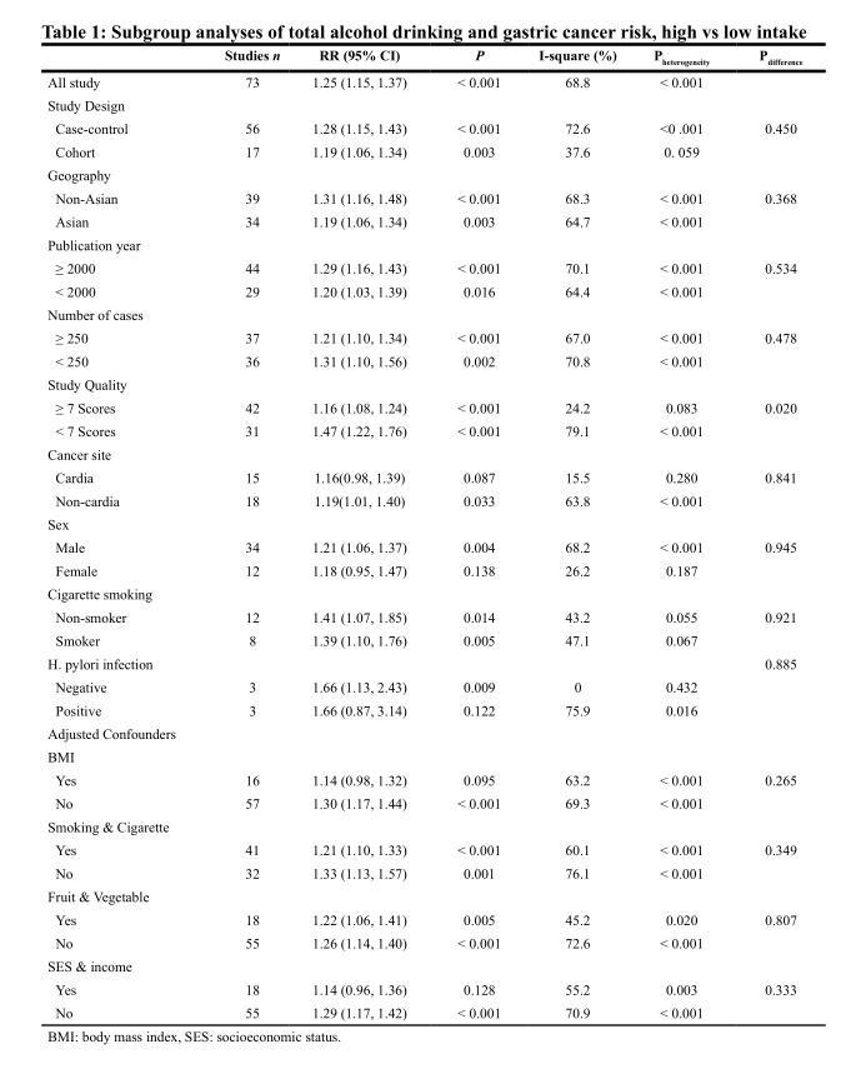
<table><thead><tr><td></td><td>Studies n</td><td>RR (95% CI)</td><td>P</td><td>I-square (%)</td><td>P<sub>heterogeneity</sub></td><td>P<sub>difference</sub></td></tr></thead><tbody><tr><td>All study</td><td>73</td><td>1.25 (1.15, 1.37)</td><td>&lt; 0.001</td><td>68.8</td><td>&lt; 0.001</td><td></td></tr><tr><td colspan="7">Study Design</td></tr><tr><td>Case-control</td><td>56</td><td>1.28 (1.15, 1.43)</td><td>&lt; 0.001</td><td>72.6</td><td>&lt;0 .001</td><td>0.450</td></tr><tr><td>Cohort</td><td>17</td><td>1.19 (1.06, 1.34)</td><td>0.003</td><td>37.6</td><td>0. 059</td><td></td></tr><tr><td colspan="7">Geography</td></tr><tr><td>Non-Asian</td><td>39</td><td>1.31 (1.16, 1.48)</td><td>&lt; 0.001</td><td>68.3</td><td>&lt; 0.001</td><td>0.368</td></tr><tr><td>Asian</td><td>34</td><td>1.19 (1.06, 1.34)</td><td>0.003</td><td>64.7</td><td>&lt; 0.001</td><td></td></tr><tr><td colspan="7">Publication year</td></tr><tr><td>≥ 2000</td><td>44</td><td>1.29 (1.16, 1.43)</td><td>&lt; 0.001</td><td>70.1</td><td>&lt; 0.001</td><td>0.534</td></tr><tr><td>&lt; 2000</td><td>29</td><td>1.20 (1.03, 1.39)</td><td>0.016</td><td>64.4</td><td>&lt; 0.001</td><td></td></tr><tr><td colspan="7">Number of cases</td></tr><tr><td>≥ 250</td><td>37</td><td>1.21 (1.10, 1.34)</td><td>&lt; 0.001</td><td>67.0</td><td>&lt; 0.001</td><td>0.478</td></tr><tr><td>&lt; 250</td><td>36</td><td>1.31 (1.10, 1.56)</td><td>0.002</td><td>70.8</td><td>&lt; 0.001</td><td></td></tr><tr><td colspan="7">Study Quality</td></tr><tr><td>≥ 7 Scores</td><td>42</td><td>1.16 (1.08, 1.24)</td><td>&lt; 0.001</td><td>24.2</td><td>0.083</td><td>0.020</td></tr><tr><td>&lt; 7 Scores</td><td>31</td><td>1.47 (1.22, 1.76)</td><td>&lt; 0.001</td><td>79.1</td><td>&lt; 0.001</td><td></td></tr><tr><td colspan="7">Cancer site</td></tr><tr><td>Cardia</td><td>15</td><td>1.16(0.98, 1.39)</td><td>0.087</td><td>15.5</td><td>0.280</td><td>0.841</td></tr><tr><td>Non-cardia</td><td>18</td><td>1.19(1.01, 1.40)</td><td>0.033</td><td>63.8</td><td>&lt; 0.001</td><td></td></tr><tr><td colspan="7">Sex</td></tr><tr><td>Male</td><td>34</td><td>1.21 (1.06, 1.37)</td><td>0.004</td><td>68.2</td><td>&lt; 0.001</td><td>0.945</td></tr><tr><td>Female</td><td>12</td><td>1.18 (0.95, 1.47)</td><td>0.138</td><td>26.2</td><td>0.187</td><td></td></tr><tr><td colspan="7">Cigarette smoking</td></tr><tr><td>Non-smoker</td><td>12</td><td>1.41 (1.07, 1.85)</td><td>0.014</td><td>43.2</td><td>0.055</td><td>0.921</td></tr><tr><td>Smoker</td><td>8</td><td>1.39 (1.10, 1.76)</td><td>0.005</td><td>47.1</td><td>0.067</td><td></td></tr><tr><td>H. pylori infection</td><td></td><td></td><td></td><td></td><td></td><td>0.885</td></tr><tr><td>Negative</td><td>3</td><td>1.66 (1.13, 2.43)</td><td>0.009</td><td>0</td><td>0.432</td><td></td></tr><tr><td>Positive</td><td>3</td><td>1.66 (0.87, 3.14)</td><td>0.122</td><td>75.9</td><td>0.016</td><td></td></tr><tr><td colspan="7">Adjusted Confounders</td></tr><tr><td colspan="7">BMI</td></tr><tr><td>Yes</td><td>16</td><td>1.14 (0.98, 1.32)</td><td>0.095</td><td>63.2</td><td>&lt; 0.001</td><td>0.265</td></tr><tr><td>No</td><td>57</td><td>1.30 (1.17, 1.44)</td><td>&lt; 0.001</td><td>69.3</td><td>&lt; 0.001</td><td></td></tr><tr><td colspan="7">Smoking &amp; Cigarette</td></tr><tr><td>Yes</td><td>41</td><td>1.21 (1.10, 1.33)</td><td>&lt; 0.001</td><td>60.1</td><td>&lt; 0.001</td><td>0.349</td></tr><tr><td>No</td><td>32</td><td>1.33 (1.13, 1.57)</td><td>0.001</td><td>76.1</td><td>&lt; 0.001</td><td></td></tr><tr><td colspan="7">Fruit &amp; Vegetable</td></tr><tr><td>Yes</td><td>18</td><td>1.22 (1.06, 1.41)</td><td>0.005</td><td>45.2</td><td>0.020</td><td>0.807</td></tr><tr><td>No</td><td>55</td><td>1.26 (1.14, 1.40)</td><td>&lt; 0.001</td><td>72.6</td><td>&lt; 0.001</td><td></td></tr><tr><td colspan="7">SES &amp; income</td></tr><tr><td>Yes</td><td>18</td><td>1.14 (0.96, 1.36)</td><td>0.128</td><td>55.2</td><td>0.003</td><td>0.333</td></tr><tr><td>No</td><td>55</td><td>1.29 (1.17, 1.42)</td><td>&lt; 0.001</td><td>70.9</td><td>&lt; 0.001</td><td></td></tr></tbody></table>